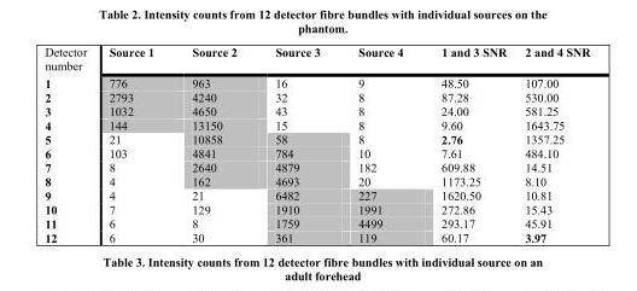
<table><thead><tr><td>Detector number</td><td>Source 1</td><td>Source 2</td><td>Source 3</td><td>Source 4</td><td>1 and 3 SNR</td><td>2 and 4 SNR</td></tr></thead><tbody><tr><td>1</td><td>776</td><td>963</td><td>16</td><td>9</td><td>48.50</td><td>107.00</td></tr><tr><td>2</td><td>2793</td><td>4240</td><td>32</td><td>8</td><td>87.28</td><td>530.00</td></tr><tr><td>3</td><td>1032</td><td>4650</td><td>43</td><td>8</td><td>24.00</td><td>581.25</td></tr><tr><td>4</td><td>144</td><td>13150</td><td>15</td><td>8</td><td>9.60</td><td>1643.75</td></tr><tr><td>5</td><td>21</td><td>10858</td><td>58</td><td>8</td><td>2.76</td><td>1357.25</td></tr><tr><td>6</td><td>103</td><td>4841</td><td>784</td><td>10</td><td>7.61</td><td>484.10</td></tr><tr><td>7</td><td>8</td><td>2640</td><td>4879</td><td>182</td><td>609.88</td><td>14.51</td></tr><tr><td>8</td><td>4</td><td>162</td><td>4693</td><td>20</td><td>1173.25</td><td>8.10</td></tr><tr><td>9</td><td>4</td><td>21</td><td>6482</td><td>227</td><td>1620.50</td><td>10.81</td></tr><tr><td>10</td><td>7</td><td>129</td><td>1910</td><td>1991</td><td>272.86</td><td>15.43</td></tr><tr><td>11</td><td>6</td><td>8</td><td>1759</td><td>4499</td><td>293.17</td><td>45.91</td></tr><tr><td>12</td><td>6</td><td>30</td><td>361</td><td>119</td><td>60.17</td><td>3.97</td></tr></tbody></table>